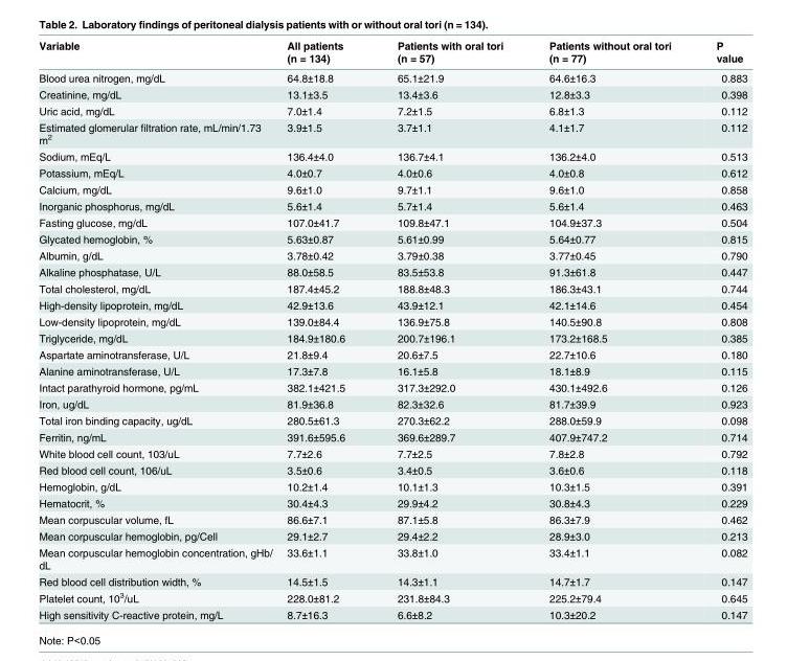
<table><thead><tr><td>Variable</td><td>All patients (n = 134)</td><td>Patients with oral tori (n = 57)</td><td>Patients without oral tori (n = 77)</td><td>P value</td></tr></thead><tbody><tr><td>Blood urea nitrogen, mg/dL</td><td>64.8±18.8</td><td>65.1±21.9</td><td>64.6±16.3</td><td>0.883</td></tr><tr><td>Creatinine, mg/dL</td><td>13.1±3.5</td><td>13.4±3.6</td><td>12.8±3.3</td><td>0.398</td></tr><tr><td>Uric acid, mg/dL</td><td>7.0±1.4</td><td>7.2±1.5</td><td>6.8±1.3</td><td>0.112</td></tr><tr><td>Estimated glomerular filtration rate, mL/min/1.73 m<sup>2</sup></td><td>3.9±1.5</td><td>3.7±1.1</td><td>4.1±1.7</td><td>0.112</td></tr><tr><td>Sodium, mEq/L</td><td>136.4±4.0</td><td>136.7±4.1</td><td>136.2±4.0</td><td>0.513</td></tr><tr><td>Potassium, mEq/L</td><td>4.0±0.7</td><td>4.0±0.6</td><td>4.0±0.8</td><td>0.612</td></tr><tr><td>Calcium, mg/dL</td><td>9.6±1.0</td><td>9.7±1.1</td><td>9.6±1.0</td><td>0.858</td></tr><tr><td>Inorganic phosphorus, mg/dL</td><td>5.6±1.4</td><td>5.7±1.4</td><td>5.6±1.4</td><td>0.463</td></tr><tr><td>Fasting glucose, mg/dL</td><td>107.0±41.7</td><td>109.8±47.1</td><td>104.9±37.3</td><td>0.504</td></tr><tr><td>Glycated hemoglobin, %</td><td>5.63±0.87</td><td>5.61±0.99</td><td>5.64±0.77</td><td>0.815</td></tr><tr><td>Albumin, g/dL</td><td>3.78±0.42</td><td>3.79±0.38</td><td>3.77±0.45</td><td>0.790</td></tr><tr><td>Alkaline phosphatase, U/L</td><td>88.0±58.5</td><td>83.5±53.8</td><td>91.3±61.8</td><td>0.447</td></tr><tr><td>Total cholesterol, mg/dL</td><td>187.4±45.2</td><td>188.8±48.3</td><td>186.3±43.1</td><td>0.744</td></tr><tr><td>High-density lipoprotein, mg/dL</td><td>42.9±13.6</td><td>43.9±12.1</td><td>42.1±14.6</td><td>0.454</td></tr><tr><td>Low-density lipoprotein, mg/dL</td><td>139.0±84.4</td><td>136.9±75.8</td><td>140.5±90.8</td><td>0.808</td></tr><tr><td>Triglyceride, mg/dL</td><td>184.9±180.6</td><td>200.7±196.1</td><td>173.2±168.5</td><td>0.385</td></tr><tr><td>Aspartate aminotransferase, U/L</td><td>21.8±9.4</td><td>20.6±7.5</td><td>22.7±10.6</td><td>0.180</td></tr><tr><td>Alanine aminotransferase, U/L</td><td>17.3±7.8</td><td>16.1±5.8</td><td>18.1±8.9</td><td>0.115</td></tr><tr><td>Intact parathyroid hormone, pg/mL</td><td>382.1±421.5</td><td>317.3±292.0</td><td>430.1±492.6</td><td>0.126</td></tr><tr><td>Iron, ug/dL</td><td>81.9±36.8</td><td>82.3±32.6</td><td>81.7±39.9</td><td>0.923</td></tr><tr><td>Total iron binding capacity, ug/dL</td><td>280.5±61.3</td><td>270.3±62.2</td><td>288.0±59.9</td><td>0.098</td></tr><tr><td>Ferritin, ng/mL</td><td>391.6±595.6</td><td>369.6±289.7</td><td>407.9±747.2</td><td>0.714</td></tr><tr><td>White blood cell count, 103/uL</td><td>7.7±2.6</td><td>7.7±2.5</td><td>7.8±2.8</td><td>0.792</td></tr><tr><td>Red blood cell count, 106/uL</td><td>3.5±0.6</td><td>3.4±0.5</td><td>3.6±0.6</td><td>0.118</td></tr><tr><td>Hemoglobin, g/dL</td><td>10.2±1.4</td><td>10.1±1.3</td><td>10.3±1.5</td><td>0.391</td></tr><tr><td>Hematocrit, %</td><td>30.4±4.3</td><td>29.9±4.2</td><td>30.8±4.3</td><td>0.229</td></tr><tr><td>Mean corpuscular volume, fL</td><td>86.6±7.1</td><td>87.1±5.8</td><td>86.3±7.9</td><td>0.462</td></tr><tr><td>Mean corpuscular hemoglobin, pg/Cell</td><td>29.1±2.7</td><td>29.4±2.2</td><td>28.9±3.0</td><td>0.213</td></tr><tr><td>Mean corpuscular hemoglobin concentration, gHb/ dL</td><td>33.6±1.1</td><td>33.8±1.0</td><td>33.4±1.1</td><td>0.082</td></tr><tr><td>Red blood cell distribution width, %</td><td>14.5±1.5</td><td>14.3±1.1</td><td>14.7±1.7</td><td>0.147</td></tr><tr><td>Platelet count, 10<sup>3</sup>/uL</td><td>228.0±81.2</td><td>231.8±84.3</td><td>225.2±79.4</td><td>0.645</td></tr><tr><td>High sensitivity C-reactive protein, mg/L</td><td>8.7±16.3</td><td>6.6±8.2</td><td>10.3±20.2</td><td>0.147</td></tr></tbody></table>